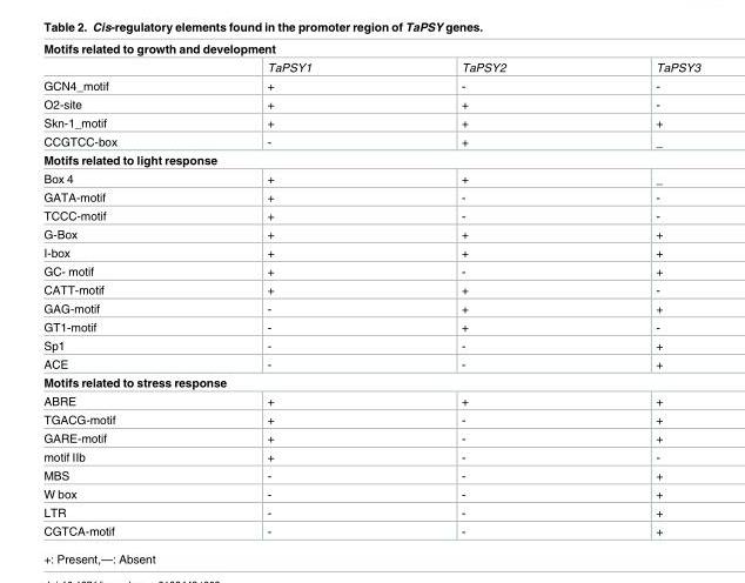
<table><tbody><tr><td colspan="4">Motifs related to growth and development</td></tr><tr><td></td><td>TaPSY1</td><td>TaPSY2</td><td>TaPSY3</td></tr><tr><td>GCN4_motif</td><td>+</td><td>-</td><td>-</td></tr><tr><td>O2-site</td><td>+</td><td>+</td><td>-</td></tr><tr><td>Skn-1_motif</td><td>+</td><td>+</td><td>+</td></tr><tr><td>CCGTCC-box</td><td>-</td><td>+</td><td>_</td></tr><tr><td colspan="4">Motifs related to light response</td></tr><tr><td>Box 4</td><td>+</td><td>+</td><td>_</td></tr><tr><td>GATA-motif</td><td>+</td><td>-</td><td>-</td></tr><tr><td>TCCC-motif</td><td>+</td><td>-</td><td>-</td></tr><tr><td>G-Box</td><td>+</td><td>+</td><td>+</td></tr><tr><td>I-box</td><td>+</td><td>+</td><td>+</td></tr><tr><td>GC- motif</td><td>+</td><td>-</td><td>+</td></tr><tr><td>CATT-motif</td><td>+</td><td>+</td><td>-</td></tr><tr><td>GAG-motif</td><td>-</td><td>+</td><td>+</td></tr><tr><td>GT1-motif</td><td>-</td><td>+</td><td>-</td></tr><tr><td>Sp1</td><td>-</td><td>-</td><td>+</td></tr><tr><td>ACE</td><td>-</td><td>-</td><td>+</td></tr><tr><td colspan="4">Motifs related to stress response</td></tr><tr><td>ABRE</td><td>+</td><td>+</td><td>+</td></tr><tr><td>TGACG-motif</td><td>+</td><td>-</td><td>+</td></tr><tr><td>GARE-motif</td><td>+</td><td>-</td><td>+</td></tr><tr><td>motif IIb</td><td>+</td><td>-</td><td>-</td></tr><tr><td>MBS</td><td>-</td><td>-</td><td>+</td></tr><tr><td>W box</td><td>-</td><td>-</td><td>+</td></tr><tr><td>LTR</td><td>-</td><td>-</td><td>+</td></tr><tr><td>CGTCA-motif</td><td>-</td><td>-</td><td>+</td></tr></tbody></table>